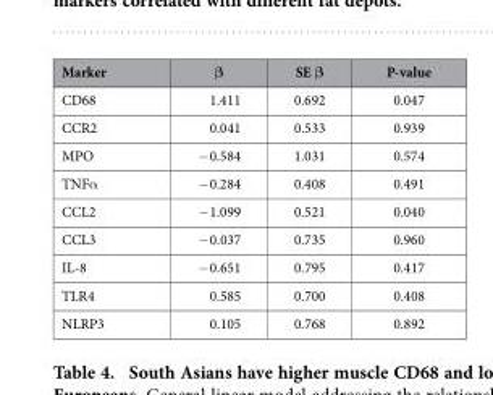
<table><thead><tr><td>Marker</td><td>β</td><td>SE β</td><td>P-value</td></tr></thead><tbody><tr><td>CD68</td><td>1.411</td><td>0.692</td><td>0.047</td></tr><tr><td>CCR2</td><td>0.041</td><td>0.533</td><td>0.939</td></tr><tr><td>MPO</td><td>− 0.584</td><td>1.031</td><td>0.574</td></tr><tr><td>TNFα</td><td>− 0.284</td><td>0.408</td><td>0.491</td></tr><tr><td>CCL2</td><td>− 1.099</td><td>0.521</td><td>0.040</td></tr><tr><td>CCL3</td><td>− 0.037</td><td>0.735</td><td>0.960</td></tr><tr><td>IL-8</td><td>− 0.651</td><td>0.795</td><td>0.417</td></tr><tr><td>TLR4</td><td>0.585</td><td>0.700</td><td>0.408</td></tr><tr><td>NLRP3</td><td>0.105</td><td>0.768</td><td>0.892</td></tr></tbody></table>